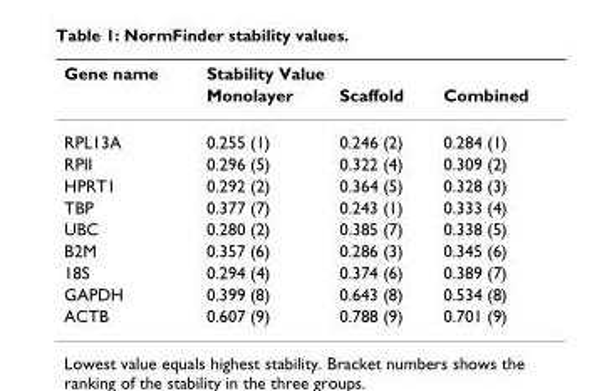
<table><thead><tr><td rowspan="2">Gene name</td><td colspan="2">Stability Value</td><td rowspan="2">Combined</td></tr><tr><td>Monolayer</td><td>Scaffold</td></tr></thead><tbody><tr><td>RPL13A</td><td>0.255 (1)</td><td>0.246 (2)</td><td>0.284 (1)</td></tr><tr><td>RPII</td><td>0.296 (5)</td><td>0.322 (4)</td><td>0.309 (2)</td></tr><tr><td>HPRT1</td><td>0.292 (2)</td><td>0.364 (5)</td><td>0.328 (3)</td></tr><tr><td>TBP</td><td>0.377 (7)</td><td>0.243 (1)</td><td>0.333 (4)</td></tr><tr><td>UBC</td><td>0.280 (2)</td><td>0.385 (7)</td><td>0.338 (5)</td></tr><tr><td>B2M</td><td>0.357 (6)</td><td>0.286 (3)</td><td>0.345 (6)</td></tr><tr><td>18S</td><td>0.294 (4)</td><td>0.374 (6)</td><td>0.389 (7)</td></tr><tr><td>GAPDH</td><td>0.399 (8)</td><td>0.643 (8)</td><td>0.534 (8)</td></tr><tr><td>ACTB</td><td>0.607 (9)</td><td>0.788 (9)</td><td>0.701 (9)</td></tr></tbody></table>